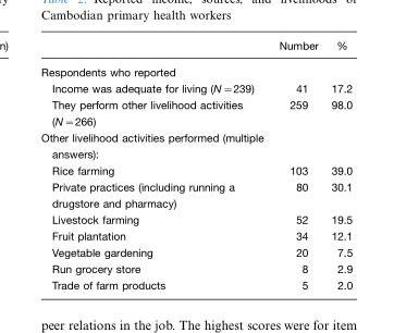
<table><thead><tr><td></td><td>Number</td><td>%</td></tr></thead><tbody><tr><td colspan="3">Respondents who reported</td></tr><tr><td>Income was adequate for living (N=239)</td><td>41</td><td>17.2</td></tr><tr><td>They perform other livelihood activities (N=266)</td><td>259</td><td>98.0</td></tr><tr><td colspan="3">Other livelihood activities performed (multiple answers):</td></tr><tr><td>Rice farming</td><td>103</td><td>39.0</td></tr><tr><td>Private practices (including running a drugstore and pharmacy)</td><td>80</td><td>30.1</td></tr><tr><td>Livestock farming</td><td>52</td><td>19.5</td></tr><tr><td>Fruit plantation</td><td>34</td><td>12.1</td></tr><tr><td>Vegetable gardening</td><td>20</td><td>7.5</td></tr><tr><td>Run grocery store</td><td>8</td><td>2.9</td></tr><tr><td>Trade of farm products</td><td>5</td><td>2.0</td></tr></tbody></table>